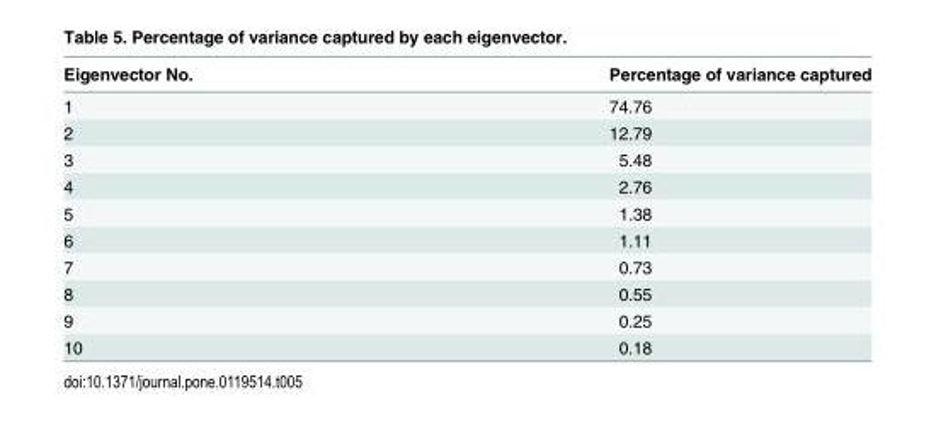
<table><thead><tr><td>Eigenvector No.</td><td>Percentage of variance captured</td></tr></thead><tbody><tr><td>1</td><td>74.76</td></tr><tr><td>2</td><td>12.79</td></tr><tr><td>3</td><td>5.48</td></tr><tr><td>4</td><td>2.76</td></tr><tr><td>5</td><td>1.38</td></tr><tr><td>6</td><td>1.11</td></tr><tr><td>7</td><td>0.73</td></tr><tr><td>8</td><td>0.55</td></tr><tr><td>9</td><td>0.25</td></tr><tr><td>10</td><td>0.18</td></tr></tbody></table>